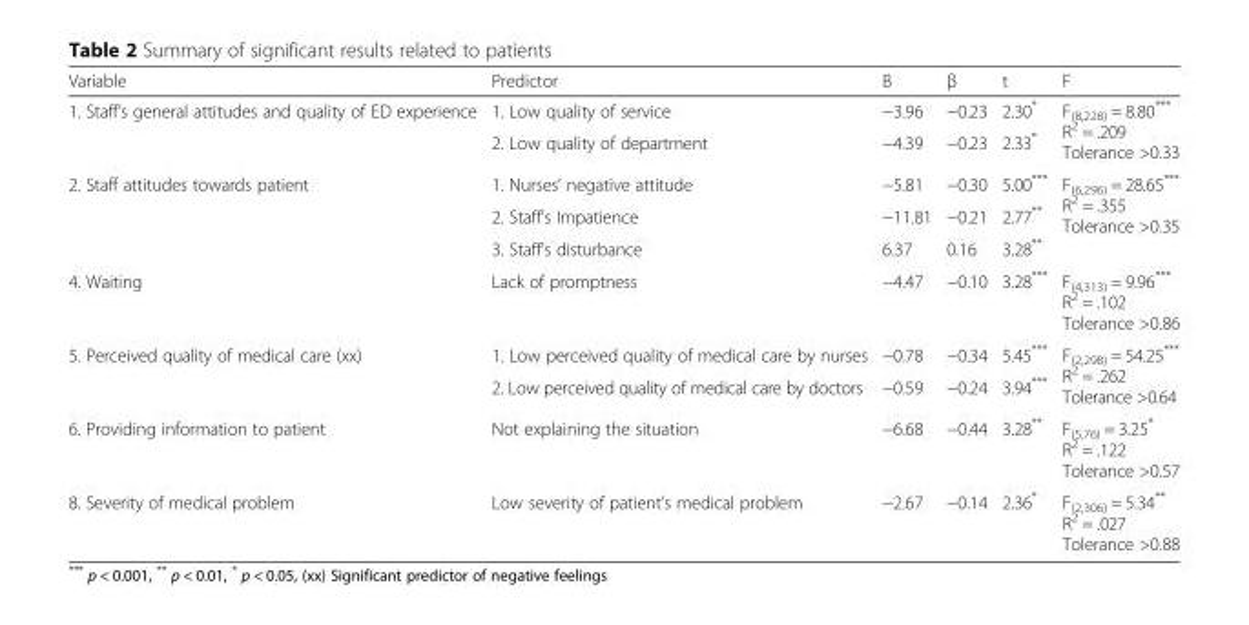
<table><thead><tr><td>Variable</td><td>Predictor</td><td>B</td><td>β</td><td>t</td><td>F</td></tr></thead><tbody><tr><td rowspan="2">1. Staff’s general attitudes and quality of ED experience</td><td>1. Low quality of service</td><td>−3.96</td><td>−0.23</td><td>2.30*</td><td rowspan="2">F<sub>(8,228)</sub> = 8.80*** R<sup>2</sup> = .209 Tolerance &gt;0.33</td></tr><tr><td>2. Low quality of department</td><td>−4.39</td><td>−0.23</td><td>2.33*</td></tr><tr><td rowspan="3">2. Staff attitudes towards patient</td><td>1. Nurses’ negative attitude</td><td>−5.81</td><td>−0.30</td><td>5.00***</td><td rowspan="3">F<sub>(6,296)</sub> = 28.65*** R<sup>2</sup> = .355 Tolerance &gt;0.35</td></tr><tr><td>2. Staff’s Impatience</td><td>−11.81</td><td>−0.21</td><td>2.77**</td></tr><tr><td>3. Staff’s disturbance</td><td>6.37</td><td>0.16</td><td>3.28**</td></tr><tr><td>4. Waiting</td><td>Lack of promptness</td><td>−4.47</td><td>−0.10</td><td>3.28***</td><td>F<sub>(4,313)</sub> = 9.96*** R<sup>2</sup> = .102 Tolerance &gt;0.86</td></tr><tr><td rowspan="2">5. Perceived quality of medical care (xx)</td><td>1. Low perceived quality of medical care by nurses</td><td>−0.78</td><td>−0.34</td><td>5.45***</td><td rowspan="2">F<sub>(2,298)</sub> = 54.25*** R<sup>2</sup> = .262 Tolerance &gt;0.64</td></tr><tr><td>2. Low perceived quality of medical care by doctors</td><td>−0.59</td><td>−0.24</td><td>3.94***</td></tr><tr><td>6. Providing information to patient</td><td>Not explaining the situation</td><td>−6.68</td><td>−0.44</td><td>3.28**</td><td>F<sub>(5,76)</sub> = 3.25* R<sup>2</sup> = .122 Tolerance &gt;0.57</td></tr><tr><td>8. Severity of medical problem</td><td>Low severity of patient’s medical problem</td><td>−2.67</td><td>−0.14</td><td>2.36*</td><td>F<sub>(2,306)</sub> = 5.34** R<sup>2</sup> = .027 Tolerance &gt;0.88</td></tr></tbody></table>